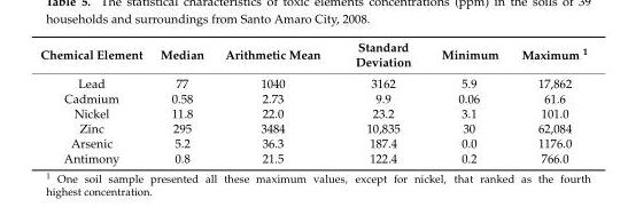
<table><thead><tr><td>Chemical Element</td><td>Median</td><td>Arithmetic Mean</td><td>Standard Deviation</td><td>Minimum</td><td>Maximum <sup>1</sup></td></tr></thead><tbody><tr><td>Lead</td><td>77</td><td>1040</td><td>3162</td><td>5.9</td><td>17,862</td></tr><tr><td>Cadmium</td><td>0.58</td><td>2.73</td><td>9.9</td><td>0.06</td><td>61.6</td></tr><tr><td>Nickel</td><td>11.8</td><td>22.0</td><td>23.2</td><td>3.1</td><td>101.0</td></tr><tr><td>Zinc</td><td>295</td><td>3484</td><td>10,835</td><td>30</td><td>62,084</td></tr><tr><td>Arsenic</td><td>5.2</td><td>36.3</td><td>187.4</td><td>0.0</td><td>1176.0</td></tr><tr><td>Antimony</td><td>0.8</td><td>21.5</td><td>122.4</td><td>0.2</td><td>766.0</td></tr></tbody></table>